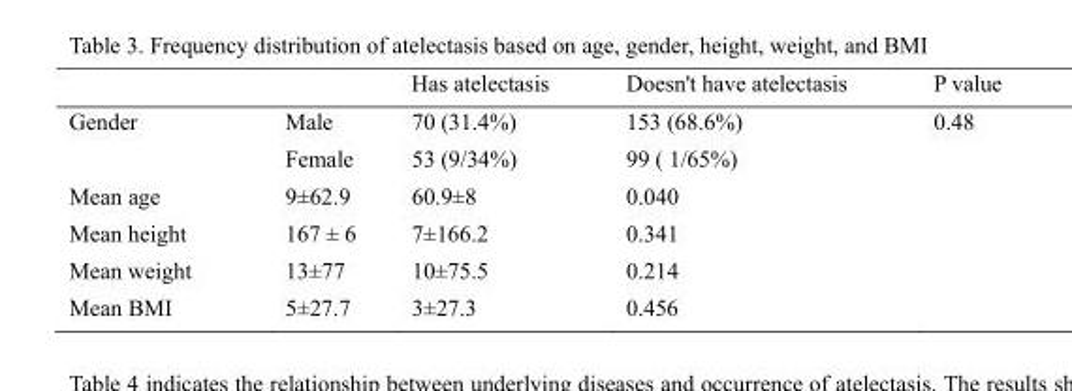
<table><thead><tr><td></td><td></td><td>Has atelectasis</td><td>Doesn&#x27;t have atelectasis</td><td>P value</td></tr></thead><tbody><tr><td rowspan="2">Gender</td><td>Male</td><td>70 (31.4%)</td><td>153 (68.6%)</td><td>0.48</td></tr><tr><td>Female</td><td>53 (9/34%)</td><td>99 ( 1/65%)</td><td></td></tr><tr><td>Mean age</td><td>9±62.9</td><td>60.9±8</td><td>0.040</td><td></td></tr><tr><td>Mean height</td><td>167 ± 6</td><td>7±166.2</td><td>0.341</td><td></td></tr><tr><td>Mean weight</td><td>13±77</td><td>10±75.5</td><td>0.214</td><td></td></tr><tr><td>Mean BMI</td><td>5±27.7</td><td>3±27.3</td><td>0.456</td><td></td></tr></tbody></table>